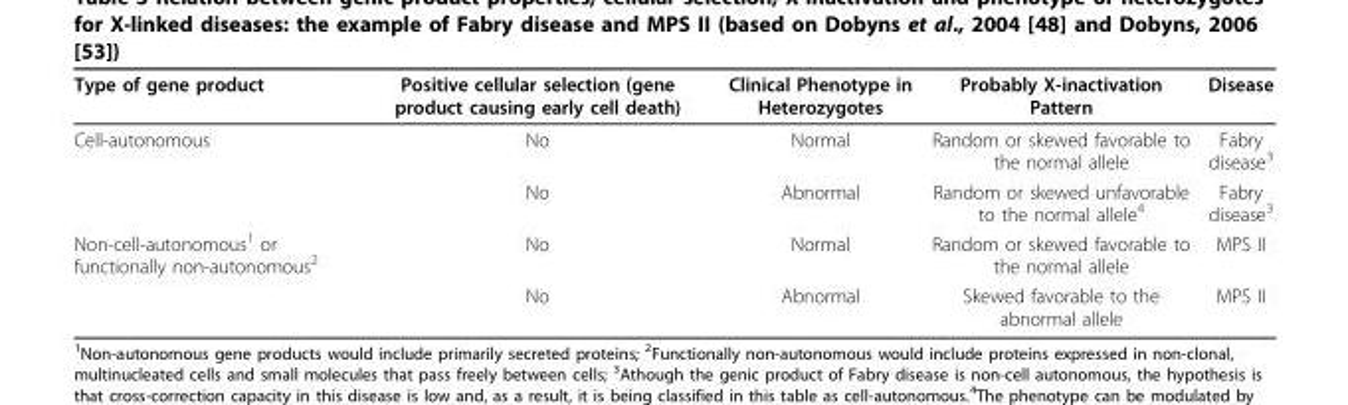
<table><thead><tr><td>Type of gene product</td><td>Positive cellular selection (gene product causing early cell death)</td><td>Clinical Phenotype in Heterozygotes</td><td>Probably X-inactivation Pattern</td><td>Disease</td></tr></thead><tbody><tr><td rowspan="2">Cell-autonomous</td><td>No</td><td>Normal</td><td>Random or skewed favorable to the normal allele</td><td>Fabry disease<sup>3</sup></td></tr><tr><td>No</td><td>Abnormal</td><td>Random or skewed unfavorable to the normal allele<sup>4</sup></td><td>Fabry disease<sup>3</sup></td></tr><tr><td rowspan="2">Non-cell-autonomous<sup>1</sup> or functionally non-autonomous<sup>2</sup></td><td>No</td><td>Normal</td><td>Random or skewed favorable to the normal allele</td><td>MPS II</td></tr><tr><td>No</td><td>Abnormal</td><td>Skewed favorable to the abnormal allele</td><td>MPS II</td></tr></tbody></table>